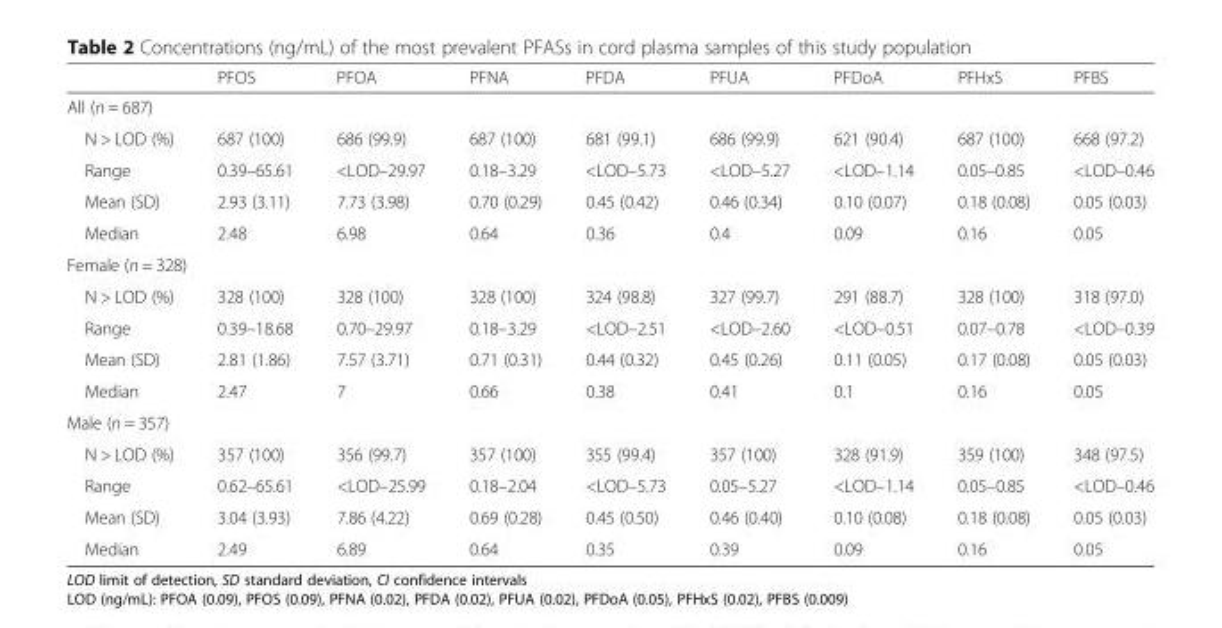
<table><thead><tr><td></td><td>PFOS</td><td>PFOA</td><td>PFNA</td><td>PFDA</td><td>PFUA</td><td>PFDoA</td><td>PFHxS</td><td>PFBS</td></tr></thead><tbody><tr><td colspan="9">All (n = 687)</td></tr><tr><td>N &gt; LOD (%)</td><td>687 (100)</td><td>686 (99.9)</td><td>687 (100)</td><td>681 (99.1)</td><td>686 (99.9)</td><td>621 (90.4)</td><td>687 (100)</td><td>668 (97.2)</td></tr><tr><td>Range</td><td>0.39–65.61</td><td>&lt;LOD–29.97</td><td>0.18–3.29</td><td>&lt;LOD–5.73</td><td>&lt;LOD–5.27</td><td>&lt;LOD–1.14</td><td>0.05–0.85</td><td>&lt;LOD–0.46</td></tr><tr><td>Mean (SD)</td><td>2.93 (3.11)</td><td>7.73 (3.98)</td><td>0.70 (0.29)</td><td>0.45 (0.42)</td><td>0.46 (0.34)</td><td>0.10 (0.07)</td><td>0.18 (0.08)</td><td>0.05 (0.03)</td></tr><tr><td>Median</td><td>2.48</td><td>6.98</td><td>0.64</td><td>0.36</td><td>0.4</td><td>0.09</td><td>0.16</td><td>0.05</td></tr><tr><td colspan="9">Female (n = 328)</td></tr><tr><td>N &gt; LOD (%)</td><td>328 (100)</td><td>328 (100)</td><td>328 (100)</td><td>324 (98.8)</td><td>327 (99.7)</td><td>291 (88.7)</td><td>328 (100)</td><td>318 (97.0)</td></tr><tr><td>Range</td><td>0.39–18.68</td><td>0.70–29.97</td><td>0.18–3.29</td><td>&lt;LOD–2.51</td><td>&lt;LOD–2.60</td><td>&lt;LOD–0.51</td><td>0.07–0.78</td><td>&lt;LOD–0.39</td></tr><tr><td>Mean (SD)</td><td>2.81 (1.86)</td><td>7.57 (3.71)</td><td>0.71 (0.31)</td><td>0.44 (0.32)</td><td>0.45 (0.26)</td><td>0.11 (0.05)</td><td>0.17 (0.08)</td><td>0.05 (0.03)</td></tr><tr><td>Median</td><td>2.47</td><td>7</td><td>0.66</td><td>0.38</td><td>0.41</td><td>0.1</td><td>0.16</td><td>0.05</td></tr><tr><td colspan="9">Male (n = 357)</td></tr><tr><td>N &gt; LOD (%)</td><td>357 (100)</td><td>356 (99.7)</td><td>357 (100)</td><td>355 (99.4)</td><td>357 (100)</td><td>328 (91.9)</td><td>359 (100)</td><td>348 (97.5)</td></tr><tr><td>Range</td><td>0.62–65.61</td><td>&lt;LOD–25.99</td><td>0.18–2.04</td><td>&lt;LOD–5.73</td><td>0.05–5.27</td><td>&lt;LOD–1.14</td><td>0.05–0.85</td><td>&lt;LOD–0.46</td></tr><tr><td>Mean (SD)</td><td>3.04 (3.93)</td><td>7.86 (4.22)</td><td>0.69 (0.28)</td><td>0.45 (0.50)</td><td>0.46 (0.40)</td><td>0.10 (0.08)</td><td>0.18 (0.08)</td><td>0.05 (0.03)</td></tr><tr><td>Median</td><td>2.49</td><td>6.89</td><td>0.64</td><td>0.35</td><td>0.39</td><td>0.09</td><td>0.16</td><td>0.05</td></tr></tbody></table>